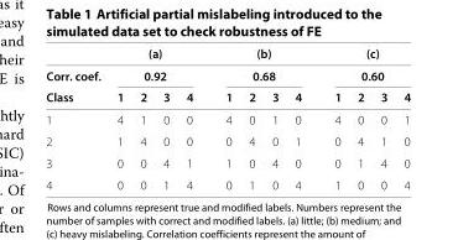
<table><thead><tr><td rowspan="3">Corr. coef. Class</td><td rowspan="2" colspan="4">(a) 0.92</td><td rowspan="2" colspan="4">(b) 0.68</td><td rowspan="2" colspan="4">(c) 0.60</td></tr><tr></tr><tr><td>1</td><td>2</td><td>3</td><td>4</td><td>1</td><td>2</td><td>3</td><td>4</td><td>1</td><td>2</td><td>3</td><td>4</td></tr></thead><tbody><tr><td>1</td><td>4</td><td>1</td><td>0</td><td>0</td><td>4</td><td>0</td><td>1</td><td>0</td><td>4</td><td>0</td><td>0</td><td>1</td></tr><tr><td>2</td><td>1</td><td>4</td><td>0</td><td>0</td><td>0</td><td>4</td><td>0</td><td>1</td><td>0</td><td>4</td><td>1</td><td>0</td></tr><tr><td>3</td><td>0</td><td>0</td><td>4</td><td>1</td><td>1</td><td>0</td><td>4</td><td>0</td><td>0</td><td>1</td><td>4</td><td>0</td></tr><tr><td>4</td><td>0</td><td>0</td><td>1</td><td>4</td><td>0</td><td>1</td><td>0</td><td>4</td><td>1</td><td>0</td><td>0</td><td>4</td></tr></tbody></table>